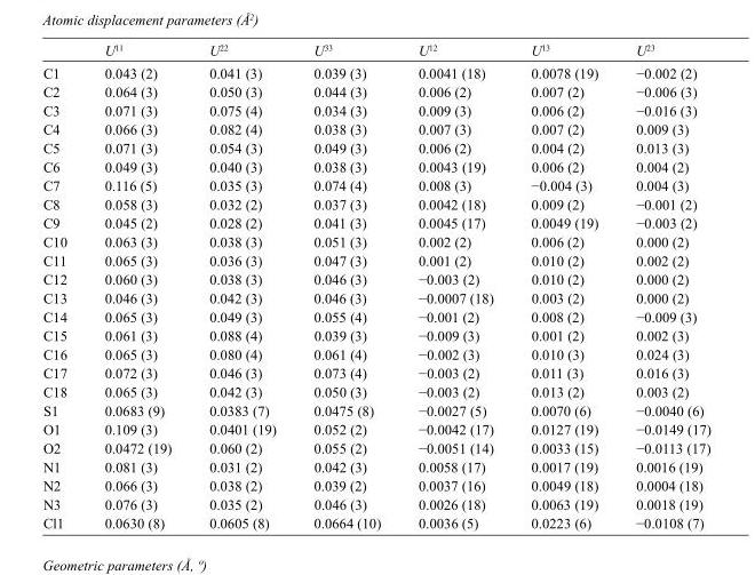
<table><thead><tr><td></td><td>U<sup>11</sup></td><td>U<sup>22</sup></td><td>U<sup>33</sup></td><td>U<sup>12</sup></td><td>U<sup>13</sup></td><td>U<sup>23</sup></td></tr></thead><tbody><tr><td>C1</td><td>0.043 (2)</td><td>0.041 (3)</td><td>0.039 (3)</td><td>0.0041 (18)</td><td>0.0078 (19)</td><td>−0.002 (2)</td></tr><tr><td>C2</td><td>0.064 (3)</td><td>0.050 (3)</td><td>0.044 (3)</td><td>0.006 (2)</td><td>0.007 (2)</td><td>−0.006 (3)</td></tr><tr><td>C3</td><td>0.071 (3)</td><td>0.075 (4)</td><td>0.034 (3)</td><td>0.009 (3)</td><td>0.006 (2)</td><td>−0.016 (3)</td></tr><tr><td>C4</td><td>0.066 (3)</td><td>0.082 (4)</td><td>0.038 (3)</td><td>0.007 (3)</td><td>0.007 (2)</td><td>0.009 (3)</td></tr><tr><td>C5</td><td>0.071 (3)</td><td>0.054 (3)</td><td>0.049 (3)</td><td>0.006 (2)</td><td>0.004 (2)</td><td>0.013 (3)</td></tr><tr><td>C6</td><td>0.049 (3)</td><td>0.040 (3)</td><td>0.038 (3)</td><td>0.0043 (19)</td><td>0.006 (2)</td><td>0.004 (2)</td></tr><tr><td>C7</td><td>0.116 (5)</td><td>0.035 (3)</td><td>0.074 (4)</td><td>0.008 (3)</td><td>−0.004 (3)</td><td>0.004 (3)</td></tr><tr><td>C8</td><td>0.058 (3)</td><td>0.032 (2)</td><td>0.037 (3)</td><td>0.0042 (18)</td><td>0.009 (2)</td><td>−0.001 (2)</td></tr><tr><td>C9</td><td>0.045 (2)</td><td>0.028 (2)</td><td>0.041 (3)</td><td>0.0045 (17)</td><td>0.0049 (19)</td><td>−0.003 (2)</td></tr><tr><td>C10</td><td>0.063 (3)</td><td>0.038 (3)</td><td>0.051 (3)</td><td>0.002 (2)</td><td>0.006 (2)</td><td>0.000 (2)</td></tr><tr><td>C11</td><td>0.065 (3)</td><td>0.036 (3)</td><td>0.047 (3)</td><td>0.001 (2)</td><td>0.010 (2)</td><td>0.002 (2)</td></tr><tr><td>C12</td><td>0.060 (3)</td><td>0.038 (3)</td><td>0.046 (3)</td><td>−0.003 (2)</td><td>0.010 (2)</td><td>0.000 (2)</td></tr><tr><td>C13</td><td>0.046 (3)</td><td>0.042 (3)</td><td>0.046 (3)</td><td>−0.0007 (18)</td><td>0.003 (2)</td><td>0.000 (2)</td></tr><tr><td>C14</td><td>0.065 (3)</td><td>0.049 (3)</td><td>0.055 (4)</td><td>−0.001 (2)</td><td>0.008 (2)</td><td>−0.009 (3)</td></tr><tr><td>C15</td><td>0.061 (3)</td><td>0.088 (4)</td><td>0.039 (3)</td><td>−0.009 (3)</td><td>0.001 (2)</td><td>0.002 (3)</td></tr><tr><td>C16</td><td>0.065 (3)</td><td>0.080 (4)</td><td>0.061 (4)</td><td>−0.002 (3)</td><td>0.010 (3)</td><td>0.024 (3)</td></tr><tr><td>C17</td><td>0.072 (3)</td><td>0.046 (3)</td><td>0.073 (4)</td><td>−0.003 (2)</td><td>0.011 (3)</td><td>0.016 (3)</td></tr><tr><td>C18</td><td>0.065 (3)</td><td>0.042 (3)</td><td>0.050 (3)</td><td>−0.003 (2)</td><td>0.013 (2)</td><td>0.003 (2)</td></tr><tr><td>S1</td><td>0.0683 (9)</td><td>0.0383 (7)</td><td>0.0475 (8)</td><td>−0.0027 (5)</td><td>0.0070 (6)</td><td>−0.0040 (6)</td></tr><tr><td>O1</td><td>0.109 (3)</td><td>0.0401 (19)</td><td>0.052 (2)</td><td>−0.0042 (17)</td><td>0.0127 (19)</td><td>−0.0149 (17)</td></tr><tr><td>O2</td><td>0.0472 (19)</td><td>0.060 (2)</td><td>0.055 (2)</td><td>−0.0051 (14)</td><td>0.0033 (15)</td><td>−0.0113 (17)</td></tr><tr><td>N1</td><td>0.081 (3)</td><td>0.031 (2)</td><td>0.042 (3)</td><td>0.0058 (17)</td><td>0.0017 (19)</td><td>0.0016 (19)</td></tr><tr><td>N2</td><td>0.066 (3)</td><td>0.038 (2)</td><td>0.039 (2)</td><td>0.0037 (16)</td><td>0.0049 (18)</td><td>0.0004 (18)</td></tr><tr><td>N3</td><td>0.076 (3)</td><td>0.035 (2)</td><td>0.046 (3)</td><td>0.0026 (18)</td><td>0.0063 (19)</td><td>0.0018 (19)</td></tr><tr><td>Cl1</td><td>0.0630 (8)</td><td>0.0605 (8)</td><td>0.0664 (10)</td><td>0.0036 (5)</td><td>0.0223 (6)</td><td>−0.0108 (7)</td></tr></tbody></table>